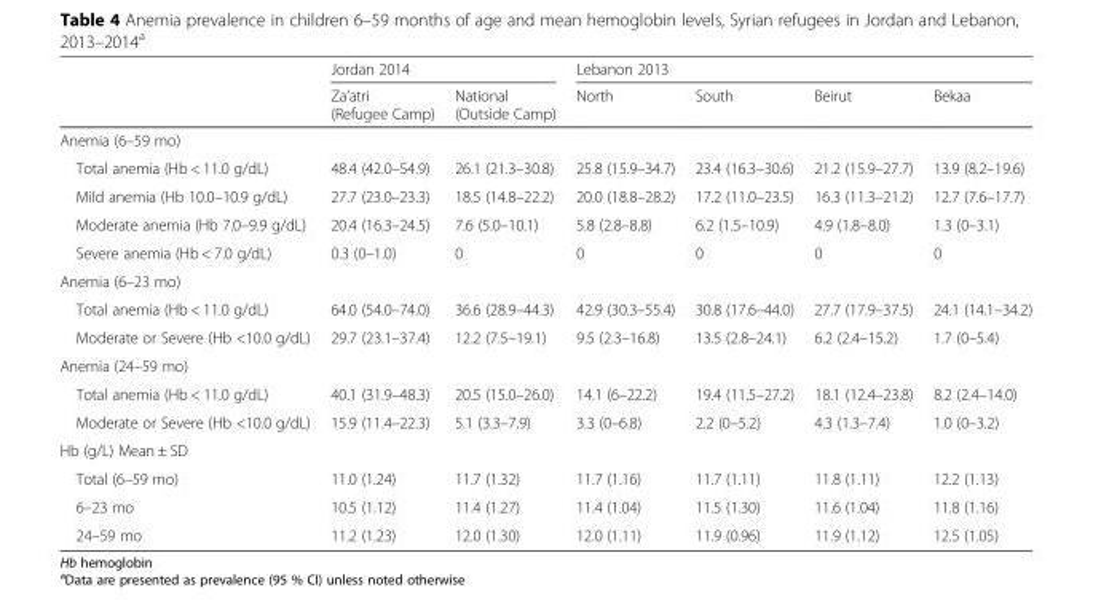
<table><thead><tr><td rowspan="2"></td><td colspan="2">Jordan 2014</td><td colspan="4">Lebanon 2013</td></tr><tr><td>Za’atri (Refugee Camp)</td><td>National (Outside Camp)</td><td>North</td><td>South</td><td>Beirut</td><td>Bekaa</td></tr></thead><tbody><tr><td colspan="7">Anemia (6–59 mo)</td></tr><tr><td>Total anemia (Hb &lt; 11.0 g/dL)</td><td>48.4 (42.0–54.9)</td><td>26.1 (21.3–30.8)</td><td>25.8 (15.9–34.7)</td><td>23.4 (16.3–30.6)</td><td>21.2 (15.9–27.7)</td><td>13.9 (8.2–19.6)</td></tr><tr><td>Mild anemia (Hb 10.0–10.9 g/dL)</td><td>27.7 (23.0–23.3)</td><td>18.5 (14.8–22.2)</td><td>20.0 (18.8–28.2)</td><td>17.2 (11.0–23.5)</td><td>16.3 (11.3–21.2)</td><td>12.7 (7.6–17.7)</td></tr><tr><td>Moderate anemia (Hb 7.0–9.9 g/dL)</td><td>20.4 (16.3–24.5)</td><td>7.6 (5.0–10.1)</td><td>5.8 (2.8–8.8)</td><td>6.2 (1.5–10.9)</td><td>4.9 (1.8–8.0)</td><td>1.3 (0–3.1)</td></tr><tr><td>Severe anemia (Hb &lt; 7.0 g/dL)</td><td>0.3 (0–1.0)</td><td>0</td><td>0</td><td>0</td><td>0</td><td>0</td></tr><tr><td colspan="7">Anemia (6–23 mo)</td></tr><tr><td>Total anemia (Hb &lt; 11.0 g/dL)</td><td>64.0 (54.0–74.0)</td><td>36.6 (28.9–44.3)</td><td>42.9 (30.3–55.4)</td><td>30.8 (17.6–44.0)</td><td>27.7 (17.9–37.5)</td><td>24.1 (14.1–34.2)</td></tr><tr><td>Moderate or Severe (Hb &lt;10.0 g/dL)</td><td>29.7 (23.1–37.4)</td><td>12.2 (7.5–19.1)</td><td>9.5 (2.3–16.8)</td><td>13.5 (2.8–24.1)</td><td>6.2 (2.4–15.2)</td><td>1.7 (0–5.4)</td></tr><tr><td colspan="7">Anemia (24–59 mo)</td></tr><tr><td>Total anemia (Hb &lt; 11.0 g/dL)</td><td>40.1 (31.9–48.3)</td><td>20.5 (15.0–26.0)</td><td>14.1 (6–22.2)</td><td>19.4 (11.5–27.2)</td><td>18.1 (12.4–23.8)</td><td>8.2 (2.4–14.0)</td></tr><tr><td>Moderate or Severe (Hb &lt;10.0 g/dL)</td><td>15.9 (11.4–22.3)</td><td>5.1 (3.3–7.9)</td><td>3.3 (0–6.8)</td><td>2.2 (0–5.2)</td><td>4.3 (1.3–7.4)</td><td>1.0 (0–3.2)</td></tr><tr><td colspan="7">Hb (g/L) Mean ± SD</td></tr><tr><td>Total (6–59 mo)</td><td>11.0 (1.24)</td><td>11.7 (1.32)</td><td>11.7 (1.16)</td><td>11.7 (1.11)</td><td>11.8 (1.11)</td><td>12.2 (1.13)</td></tr><tr><td>6–23 mo</td><td>10.5 (1.12)</td><td>11.4 (1.27)</td><td>11.4 (1.04)</td><td>11.5 (1.30)</td><td>11.6 (1.04)</td><td>11.8 (1.16)</td></tr><tr><td>24–59 mo</td><td>11.2 (1.23)</td><td>12.0 (1.30)</td><td>12.0 (1.11)</td><td>11.9 (0.96)</td><td>11.9 (1.12)</td><td>12.5 (1.05)</td></tr></tbody></table>